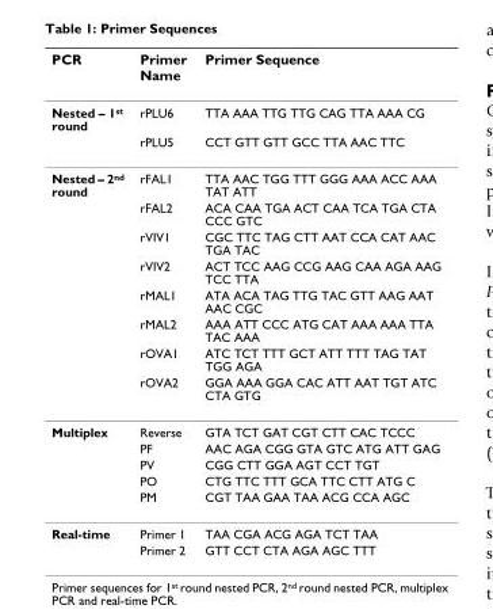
<table><thead><tr><td>PCR</td><td>Primer Name</td><td>Primer Sequence</td></tr></thead><tbody><tr><td rowspan="2">Nested – 1<sup>st</sup> round</td><td>rPLU6</td><td>TTA AAA TTG TTG CAG TTA AAA CG</td></tr><tr><td>rPLU5</td><td>CCT GTT GTT GCC TTA AAC TTC</td></tr><tr><td rowspan="8">Nested – 2<sup>nd</sup> round</td><td>rFAL1</td><td>TTA AAC TGG TTT GGG AAA ACC AAA TAT ATT</td></tr><tr><td>rFAL2</td><td>ACA CAA TGA ACT CAA TCA TGA CTA CCC GTC</td></tr><tr><td>rVIV1</td><td>CGC TTC TAG CTT AAT CCA CAT AAC TGA TAC</td></tr><tr><td>rVIV2</td><td>ACT TCC AAG CCG AAG CAA AGA AAG TCC TTA</td></tr><tr><td>rMAL1</td><td>ATA ACA TAG TTG TAC GTT AAG AAT AAC CGC</td></tr><tr><td>rMAL2</td><td>AAA ATT CCC ATG CAT AAA AAA TTA TAC AAA</td></tr><tr><td>rOVA1</td><td>ATC TCT TTT GCT ATT TTT TAG TAT TGG AGA</td></tr><tr><td>rOVA2</td><td>GGA AAA GGA CAC ATT AAT TGT ATC CTA GTG</td></tr><tr><td rowspan="5">Multiplex</td><td>Reverse</td><td>GTA TCT GAT CGT CTT CAC TCCC</td></tr><tr><td>PF</td><td>AAC AGA CGG GTA GTC ATG ATT GAG</td></tr><tr><td>PV</td><td>CGG CTT GGA AGT CCT TGT</td></tr><tr><td>PO</td><td>CTG TTC TTT GCA TTC CTT ATG C</td></tr><tr><td>PM</td><td>CGT TAA GAA TAA ACG CCA AGC</td></tr><tr><td rowspan="2">Real-time</td><td>Primer 1</td><td>TAA CGA ACG AGA TCT TAA</td></tr><tr><td>Primer 2</td><td>GTT CCT CTA AGA AGC TTT</td></tr></tbody></table>